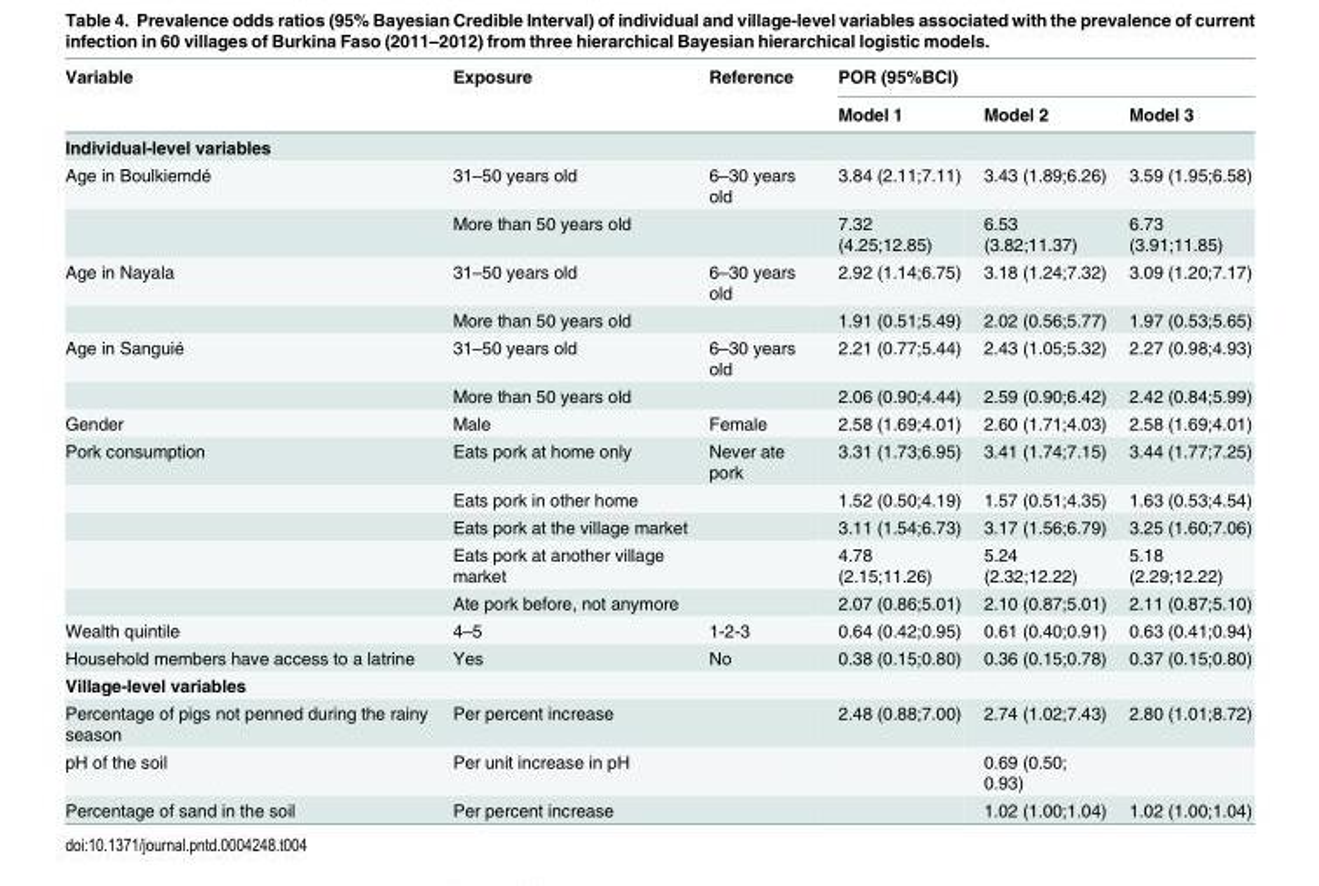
<table><thead><tr><td rowspan="2">Variable</td><td rowspan="2">Exposure</td><td rowspan="2">Reference</td><td colspan="3">POR (95%BCI)</td></tr><tr><td>Model 1</td><td>Model 2</td><td>Model 3</td></tr></thead><tbody><tr><td colspan="6">Individual-level variables</td></tr><tr><td rowspan="2">Age in Boulkiemdé</td><td>31–50 years old</td><td>6–30 years old</td><td>3.84 (2.11;7.11)</td><td>3.43 (1.89;6.26)</td><td>3.59 (1.95;6.58)</td></tr><tr><td>More than 50 years old</td><td></td><td>7.32 (4.25;12.85)</td><td>6.53 (3.82;11.37)</td><td>6.73 (3.91;11.85)</td></tr><tr><td rowspan="2">Age in Nayala</td><td>31–50 years old</td><td>6–30 years old</td><td>2.92 (1.14;6.75)</td><td>3.18 (1.24;7.32)</td><td>3.09 (1.20;7.17)</td></tr><tr><td>More than 50 years old</td><td></td><td>1.91 (0.51;5.49)</td><td>2.02 (0.56;5.77)</td><td>1.97 (0.53;5.65)</td></tr><tr><td rowspan="2">Age in Sanguié</td><td>31–50 years old</td><td>6–30 years old</td><td>2.21 (0.77;5.44)</td><td>2.43 (1.05;5.32)</td><td>2.27 (0.98;4.93)</td></tr><tr><td>More than 50 years old</td><td></td><td>2.06 (0.90;4.44)</td><td>2.59 (0.90;6.42)</td><td>2.42 (0.84;5.99)</td></tr><tr><td>Gender</td><td>Male</td><td>Female</td><td>2.58 (1.69;4.01)</td><td>2.60 (1.71;4.03)</td><td>2.58 (1.69;4.01)</td></tr><tr><td rowspan="5">Pork consumption</td><td>Eats pork at home only</td><td>Never ate pork</td><td>3.31 (1.73;6.95)</td><td>3.41 (1.74;7.15)</td><td>3.44 (1.77;7.25)</td></tr><tr><td>Eats pork in other home</td><td></td><td>1.52 (0.50;4.19)</td><td>1.57 (0.51;4.35)</td><td>1.63 (0.53;4.54)</td></tr><tr><td>Eats pork at the village market</td><td></td><td>3.11 (1.54;6.73)</td><td>3.17 (1.56;6.79)</td><td>3.25 (1.60;7.06)</td></tr><tr><td>Eats pork at another village market</td><td></td><td>4.78 (2.15;11.26)</td><td>5.24 (2.32;12.22)</td><td>5.18 (2.29;12.22)</td></tr><tr><td>Ate pork before, not anymore</td><td></td><td>2.07 (0.86;5.01)</td><td>2.10 (0.87;5.01)</td><td>2.11 (0.87;5.10)</td></tr><tr><td>Wealth quintile</td><td>4–5</td><td>1-2-3</td><td>0.64 (0.42;0.95)</td><td>0.61 (0.40;0.91)</td><td>0.63 (0.41;0.94)</td></tr><tr><td>Household members have access to a latrine</td><td>Yes</td><td>No</td><td>0.38 (0.15;0.80)</td><td>0.36 (0.15;0.78)</td><td>0.37 (0.15;0.80)</td></tr><tr><td colspan="6">Village-level variables</td></tr><tr><td>Percentage of pigs not penned during the rainy season</td><td>Per percent increase</td><td></td><td>2.48 (0.88;7.00)</td><td>2.74 (1.02;7.43)</td><td>2.80 (1.01;8.72)</td></tr><tr><td>pH of the soil</td><td>Per unit increase in pH</td><td></td><td></td><td>0.69 (0.50; 0.93)</td><td></td></tr><tr><td>Percentage of sand in the soil</td><td>Per percent increase</td><td></td><td></td><td>1.02 (1.00;1.04)</td><td>1.02 (1.00;1.04)</td></tr></tbody></table>